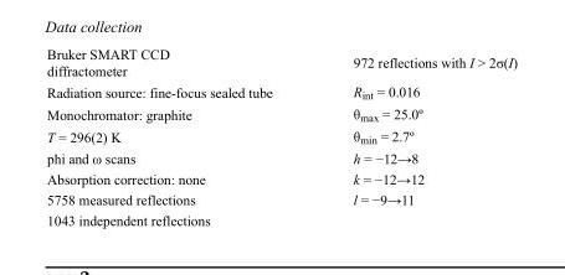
<table><tbody><tr><td>Bruker SMART CCD diffractometer</td><td>972 reflections with I &gt; 2σ(I)</td></tr><tr><td>Radiation source: fine-focus sealed tube</td><td>R<sub>int</sub> = 0.016</td></tr><tr><td>Monochromator: graphite</td><td>θ<sub>max</sub> = 25.0º</td></tr><tr><td>T = 296(2) K</td><td>θ<sub>min</sub> = 2.7º</td></tr><tr><td>phi and ω scans</td><td>h = −12→8</td></tr><tr><td>Absorption correction: none</td><td>k = −12→12</td></tr><tr><td>5758 measured reflections</td><td>l = −9→11</td></tr><tr><td>1043 independent reflections</td><td></td></tr></tbody></table>